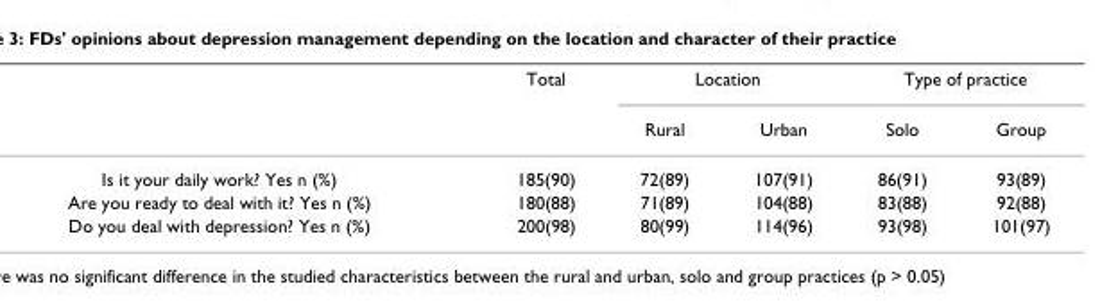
<table><thead><tr><td rowspan="2"></td><td rowspan="2">Total</td><td colspan="2">Location</td><td colspan="2">Type of practice</td></tr><tr><td>Rural</td><td>Urban</td><td>Solo</td><td>Group</td></tr></thead><tbody><tr><td>Is it your daily work? Yes n (%)</td><td>185(90)</td><td>72(89)</td><td>107(91)</td><td>86(91)</td><td>93(89)</td></tr><tr><td>Are you ready to deal with it? Yes n (%)</td><td>180(88)</td><td>71(89)</td><td>104(88)</td><td>83(88)</td><td>92(88)</td></tr><tr><td>Do you deal with depression? Yes n (%)</td><td>200(98)</td><td>80(99)</td><td>114(96)</td><td>93(98)</td><td>101(97)</td></tr></tbody></table>